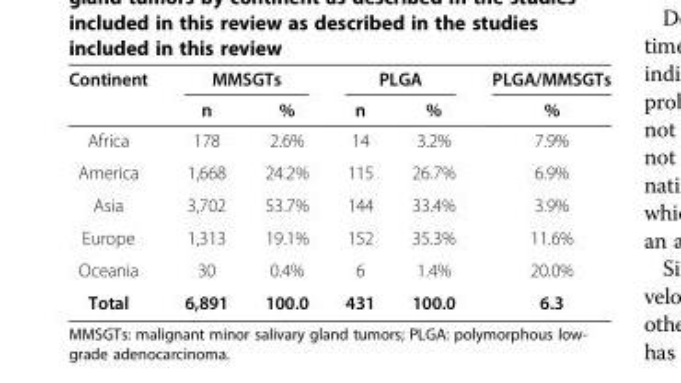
<table><thead><tr><td rowspan="2">Continent</td><td colspan="2">MMSGTs</td><td colspan="2">PLGA</td><td rowspan="2">PLGA/MMSGTs %</td></tr><tr><td>n</td><td>%</td><td>n</td><td>%</td></tr></thead><tbody><tr><td>Africa</td><td>178</td><td>2.6%</td><td>14</td><td>3.2%</td><td>7.9%</td></tr><tr><td>America</td><td>1,668</td><td>24.2%</td><td>115</td><td>26.7%</td><td>6.9%</td></tr><tr><td>Asia</td><td>3,702</td><td>53.7%</td><td>144</td><td>33.4%</td><td>3.9%</td></tr><tr><td>Europe</td><td>1,313</td><td>19.1%</td><td>152</td><td>35.3%</td><td>11.6%</td></tr><tr><td>Oceania</td><td>30</td><td>0.4%</td><td>6</td><td>1.4%</td><td>20.0%</td></tr><tr><td>Total</td><td>6,891</td><td>100.0</td><td>431</td><td>100.0</td><td>6.3</td></tr></tbody></table>